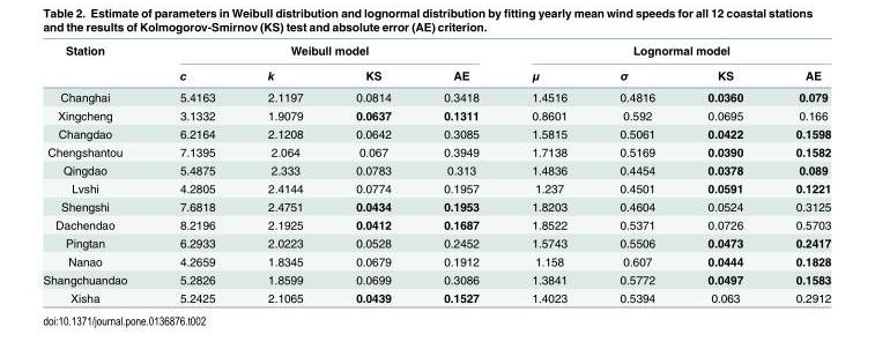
<table><thead><tr><td rowspan="2">Station</td><td colspan="4">Weibull model</td><td colspan="4">Lognormal model</td></tr><tr><td>c</td><td>k</td><td>KS</td><td>AE</td><td>μ</td><td>σ</td><td>KS</td><td>AE</td></tr></thead><tbody><tr><td>Changhai</td><td>5.4163</td><td>2.1197</td><td>0.0814</td><td>0.3418</td><td>1.4516</td><td>0.4816</td><td>0.0360</td><td>0.079</td></tr><tr><td>Xingcheng</td><td>3.1332</td><td>1.9079</td><td>0.0637</td><td>0.1311</td><td>0.8601</td><td>0.592</td><td>0.0695</td><td>0.166</td></tr><tr><td>Changdao</td><td>6.2164</td><td>2.1208</td><td>0.0642</td><td>0.3085</td><td>1.5815</td><td>0.5061</td><td>0.0422</td><td>0.1598</td></tr><tr><td>Chengshantou</td><td>7.1395</td><td>2.064</td><td>0.067</td><td>0.3949</td><td>1.7138</td><td>0.5169</td><td>0.0390</td><td>0.1582</td></tr><tr><td>Qingdao</td><td>5.4875</td><td>2.333</td><td>0.0783</td><td>0.313</td><td>1.4836</td><td>0.4454</td><td>0.0378</td><td>0.089</td></tr><tr><td>Lvshi</td><td>4.2805</td><td>2.4144</td><td>0.0774</td><td>0.1957</td><td>1.237</td><td>0.4501</td><td>0.0591</td><td>0.1221</td></tr><tr><td>Shengshi</td><td>7.6818</td><td>2.4751</td><td>0.0434</td><td>0.1953</td><td>1.8203</td><td>0.4604</td><td>0.0524</td><td>0.3125</td></tr><tr><td>Dachendao</td><td>8.2196</td><td>2.1925</td><td>0.0412</td><td>0.1687</td><td>1.8522</td><td>0.5371</td><td>0.0726</td><td>0.5703</td></tr><tr><td>Pingtan</td><td>6.2933</td><td>2.0223</td><td>0.0528</td><td>0.2452</td><td>1.5743</td><td>0.5506</td><td>0.0473</td><td>0.2417</td></tr><tr><td>Nanao</td><td>4.2659</td><td>1.8345</td><td>0.0679</td><td>0.1912</td><td>1.158</td><td>0.607</td><td>0.0444</td><td>0.1828</td></tr><tr><td>Shangchuandao</td><td>5.2826</td><td>1.8599</td><td>0.0699</td><td>0.3086</td><td>1.3841</td><td>0.5772</td><td>0.0497</td><td>0.1583</td></tr><tr><td>Xisha</td><td>5.2425</td><td>2.1065</td><td>0.0439</td><td>0.1527</td><td>1.4023</td><td>0.5394</td><td>0.063</td><td>0.2912</td></tr></tbody></table>